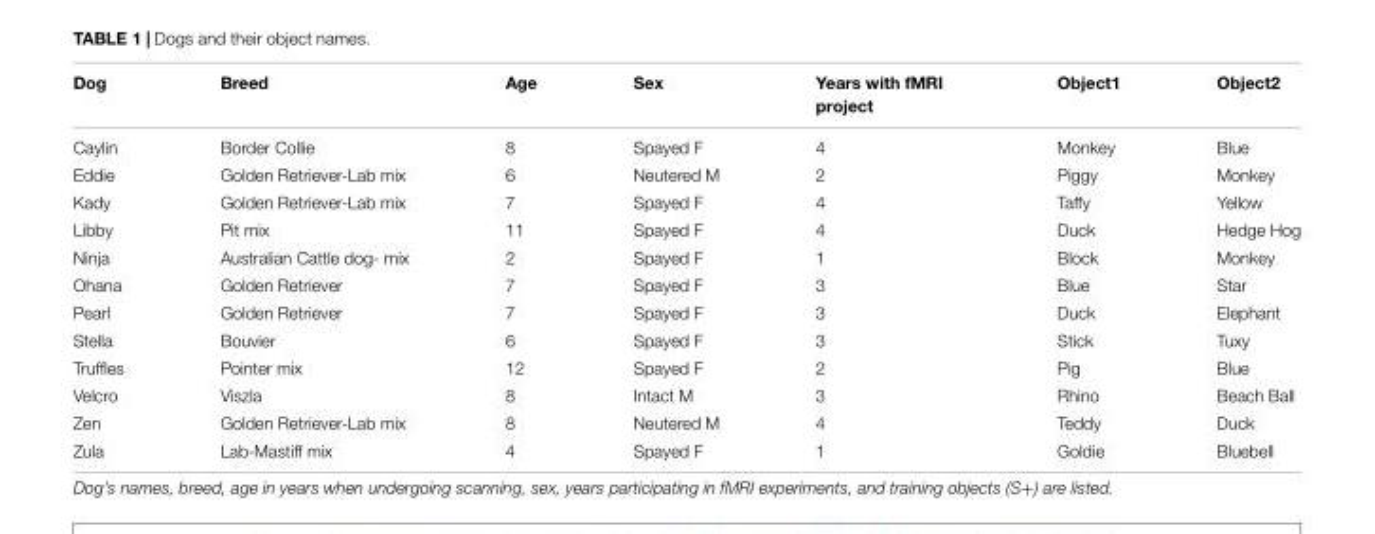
<table><thead><tr><td>Dog</td><td>Breed</td><td>Age</td><td>Sex</td><td>Years with fMRI project</td><td>Object1</td><td>Object2</td></tr></thead><tbody><tr><td>Caylin</td><td>Border Collie</td><td>8</td><td>Spayed F</td><td>4</td><td>Monkey</td><td>Blue</td></tr><tr><td>Eddie</td><td>Golden Retriever-Lab mix</td><td>6</td><td>Neutered M</td><td>2</td><td>Piggy</td><td>Monkey</td></tr><tr><td>Kady</td><td>Golden Retriever-Lab mix</td><td>7</td><td>Spayed F</td><td>4</td><td>Taffy</td><td>Yellow</td></tr><tr><td>Libby</td><td>Pit mix</td><td>11</td><td>Spayed F</td><td>4</td><td>Duck</td><td>Hedge Hog</td></tr><tr><td>Ninja</td><td>Australian Cattle dog- mix</td><td>2</td><td>Spayed F</td><td>1</td><td>Block</td><td>Monkey</td></tr><tr><td>Ohana</td><td>Golden Retriever</td><td>7</td><td>Spayed F</td><td>3</td><td>Blue</td><td>Star</td></tr><tr><td>Pearl</td><td>Golden Retriever</td><td>7</td><td>Spayed F</td><td>3</td><td>Duck</td><td>Elephant</td></tr><tr><td>Stella</td><td>Bouvier</td><td>6</td><td>Spayed F</td><td>3</td><td>Stick</td><td>Tuxy</td></tr><tr><td>Truffles</td><td>Pointer mix</td><td>12</td><td>Spayed F</td><td>2</td><td>Pig</td><td>Blue</td></tr><tr><td>Velcro</td><td>Viszla</td><td>8</td><td>Intact M</td><td>3</td><td>Rhino</td><td>Beach Ball</td></tr><tr><td>Zen</td><td>Golden Retriever-Lab mix</td><td>8</td><td>Neutered M</td><td>4</td><td>Teddy</td><td>Duck</td></tr><tr><td>Zula</td><td>Lab-Mastiff mix</td><td>4</td><td>Spayed F</td><td>1</td><td>Goldie</td><td>Bluebell</td></tr></tbody></table>